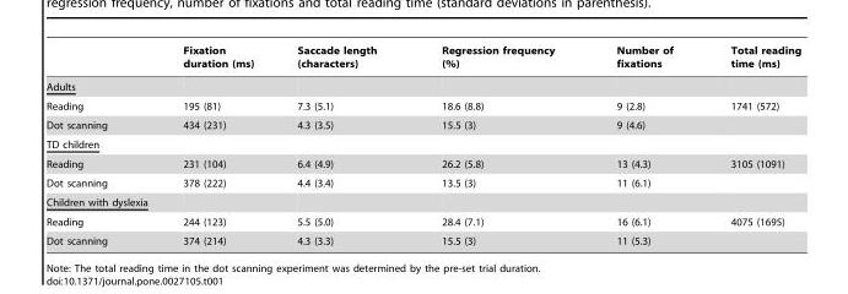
<table><thead><tr><td></td><td>Fixation duration (ms)</td><td>Saccade length (characters)</td><td>Regression frequency (%)</td><td>Number of fixations</td><td>Total reading time (ms)</td></tr></thead><tbody><tr><td colspan="6">Adults</td></tr><tr><td>Reading</td><td>195 (81)</td><td>7.3 (5.1)</td><td>18.6 (8.8)</td><td>9 (2.8)</td><td>1741 (572)</td></tr><tr><td>Dot scanning</td><td>434 (231)</td><td>4.3 (3.5)</td><td>15.5 (3)</td><td>9 (4.6)</td><td></td></tr><tr><td colspan="6">TD children</td></tr><tr><td>Reading</td><td>231 (104)</td><td>6.4 (4.9)</td><td>26.2 (5.8)</td><td>13 (4.3)</td><td>3105 (1091)</td></tr><tr><td>Dot scanning</td><td>378 (222)</td><td>4.4 (3.4)</td><td>13.5 (3)</td><td>11 (6.1)</td><td></td></tr><tr><td colspan="6">Children with dyslexia</td></tr><tr><td>Reading</td><td>244 (123)</td><td>5.5 (5.0)</td><td>28.4 (7.1)</td><td>16 (6.1)</td><td>4075 (1695)</td></tr><tr><td>Dot scanning</td><td>374 (214)</td><td>4.3 (3.3)</td><td>15.5 (3)</td><td>11 (5.3)</td><td></td></tr></tbody></table>